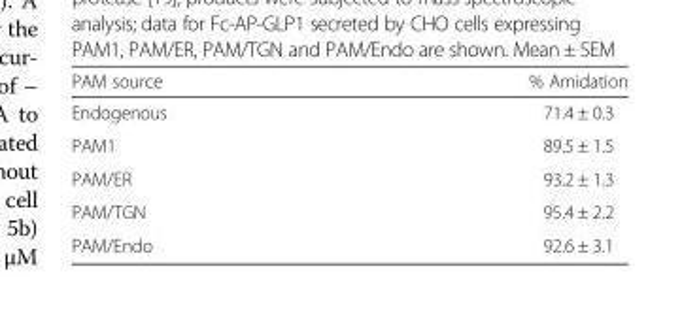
<table><thead><tr><td>PAM source</td><td>% Amidation</td></tr></thead><tbody><tr><td>Endogenous</td><td>71.4 ± 0.3</td></tr><tr><td>PAM1</td><td>89.5 ± 1.5</td></tr><tr><td>PAM/ER</td><td>93.2 ± 1.3</td></tr><tr><td>PAM/TGN</td><td>95.4 ± 2.2</td></tr><tr><td>PAM/Endo</td><td>92.6 ± 3.1</td></tr></tbody></table>